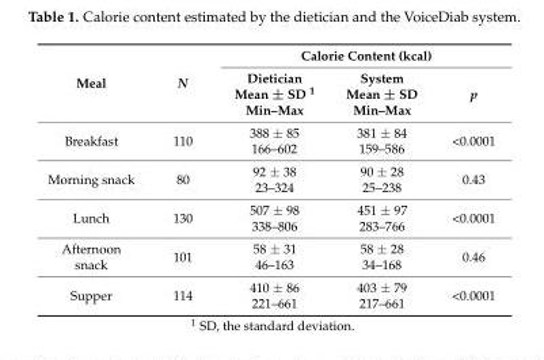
<table><thead><tr><td rowspan="2">Meal</td><td rowspan="2">N</td><td colspan="3">Calorie Content (kcal)</td></tr><tr><td>Dietician Mean ± SD <sup>1</sup> Min–Max</td><td>System Mean ± SD Min–Max</td><td>p</td></tr></thead><tbody><tr><td>Breakfast</td><td>110</td><td>388 ± 85 166–602</td><td>381 ± 84 159–586</td><td>&lt;0.0001</td></tr><tr><td>Morning snack</td><td>80</td><td>92 ± 38 23–324</td><td>90 ± 28 25–238</td><td>0.43</td></tr><tr><td>Lunch</td><td>130</td><td>507 ± 98 338–806</td><td>451 ± 97 283–766</td><td>&lt;0.0001</td></tr><tr><td>Afternoon snack</td><td>101</td><td>58 ± 31 46–163</td><td>58 ± 28 34–168</td><td>0.46</td></tr><tr><td>Supper</td><td>114</td><td>410 ± 86 221–661</td><td>403 ± 79 217–661</td><td>&lt;0.0001</td></tr></tbody></table>